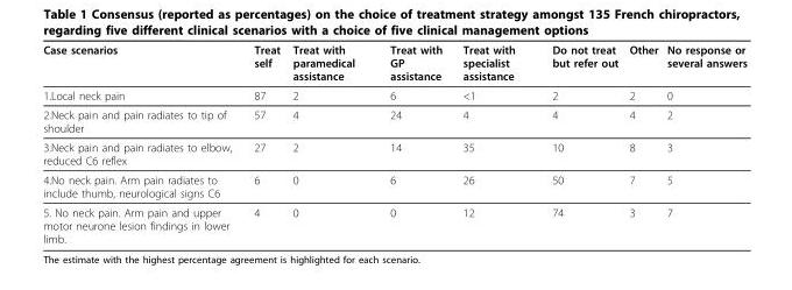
<table><thead><tr><td>Case scenarios</td><td>Treat self</td><td>Treat with paramedical assistance</td><td>Treat with GP assistance</td><td>Treat with specialist assistance</td><td>Do not treat but refer out</td><td>Other</td><td>No response or several answers</td></tr></thead><tbody><tr><td>1.Local neck pain</td><td>87</td><td>2</td><td>6</td><td>&lt;1</td><td>2</td><td>2</td><td>0</td></tr><tr><td>2.Neck pain and pain radiates to tip of shoulder</td><td>57</td><td>4</td><td>24</td><td>4</td><td>4</td><td>4</td><td>2</td></tr><tr><td>3.Neck pain and pain radiates to elbow, reduced C6 reflex</td><td>27</td><td>2</td><td>14</td><td>35</td><td>10</td><td>8</td><td>3</td></tr><tr><td>4.No neck pain. Arm pain radiates to include thumb, neurological signs C6</td><td>6</td><td>0</td><td>6</td><td>26</td><td>50</td><td>7</td><td>5</td></tr><tr><td>5. No neck pain. Arm pain and upper motor neurone lesion findings in lower limb.</td><td>4</td><td>0</td><td>0</td><td>12</td><td>74</td><td>3</td><td>7</td></tr></tbody></table>